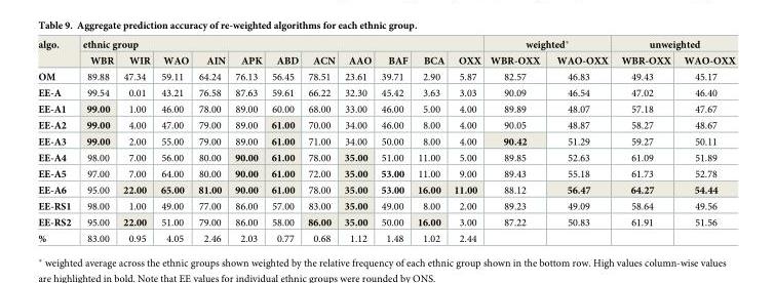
<table><thead><tr><td rowspan="2">algo.</td><td colspan="11">ethnic group</td><td colspan="2">weighted*</td><td colspan="2">unweighted</td></tr><tr><td>WBR</td><td>WIR</td><td>WAO</td><td>AIN</td><td>APK</td><td>ABD</td><td>ACN</td><td>AAO</td><td>BAF</td><td>BCA</td><td>OXX</td><td>WBR-OXX</td><td>WAO-OXX</td><td>WBR-OXX</td><td>WAO-OXX</td></tr></thead><tbody><tr><td>OM</td><td>89.88</td><td>47.34</td><td>59.11</td><td>64.24</td><td>76.13</td><td>56.45</td><td>78.51</td><td>23.61</td><td>39.71</td><td>2.90</td><td>5.87</td><td>82.57</td><td>46.83</td><td>49.43</td><td>45.17</td></tr><tr><td>EE-A</td><td>99.54</td><td>0.01</td><td>43.21</td><td>76.58</td><td>87.63</td><td>59.61</td><td>66.22</td><td>32.30</td><td>45.42</td><td>3.63</td><td>3.03</td><td>90.09</td><td>46.54</td><td>47.02</td><td>46.40</td></tr><tr><td>EE-A1</td><td>99.00</td><td>1.00</td><td>46.00</td><td>78.00</td><td>89.00</td><td>60.00</td><td>68.00</td><td>33.00</td><td>46.00</td><td>5.00</td><td>4.00</td><td>89.89</td><td>48.07</td><td>57.18</td><td>47.67</td></tr><tr><td>EE-A2</td><td>99.00</td><td>4.00</td><td>47.00</td><td>79.00</td><td>89.00</td><td>61.00</td><td>70.00</td><td>34.00</td><td>46.00</td><td>8.00</td><td>4.00</td><td>90.05</td><td>48.87</td><td>58.27</td><td>48.67</td></tr><tr><td>EE-A3</td><td>99.00</td><td>2.00</td><td>55.00</td><td>79.00</td><td>89.00</td><td>61.00</td><td>71.00</td><td>34.00</td><td>50.00</td><td>8.00</td><td>4.00</td><td>90.42</td><td>51.29</td><td>59.27</td><td>50.11</td></tr><tr><td>EE-A4</td><td>98.00</td><td>7.00</td><td>56.00</td><td>80.00</td><td>90.00</td><td>61.00</td><td>78.00</td><td>35.00</td><td>51.00</td><td>11.00</td><td>5.00</td><td>89.85</td><td>52.63</td><td>61.09</td><td>51.89</td></tr><tr><td>EE-A5</td><td>97.00</td><td>7.00</td><td>64.00</td><td>80.00</td><td>90.00</td><td>61.00</td><td>72.00</td><td>35.00</td><td>53.00</td><td>11.00</td><td>9.00</td><td>89.43</td><td>55.18</td><td>61.73</td><td>52.78</td></tr><tr><td>EE-A6</td><td>95.00</td><td>22.00</td><td>65.00</td><td>81.00</td><td>90.00</td><td>61.00</td><td>78.00</td><td>35.00</td><td>53.00</td><td>16.00</td><td>11.00</td><td>88.12</td><td>56.47</td><td>64.27</td><td>54.44</td></tr><tr><td>EE-RS1</td><td>98.00</td><td>1.00</td><td>49.00</td><td>77.00</td><td>86.00</td><td>57.00</td><td>83.00</td><td>35.00</td><td>49.00</td><td>8.00</td><td>2.00</td><td>89.23</td><td>49.09</td><td>58.64</td><td>49.56</td></tr><tr><td>EE-RS2</td><td>95.00</td><td>22.00</td><td>51.00</td><td>79.00</td><td>86.00</td><td>58.00</td><td>86.00</td><td>35.00</td><td>50.00</td><td>16.00</td><td>3.00</td><td>87.22</td><td>50.83</td><td>61.91</td><td>51.56</td></tr><tr><td>%</td><td>83.00</td><td>0.95</td><td>4.05</td><td>2.46</td><td>2.03</td><td>0.77</td><td>0.68</td><td>1.12</td><td>1.48</td><td>1.02</td><td>2.44</td><td></td><td></td><td></td><td></td></tr></tbody></table>